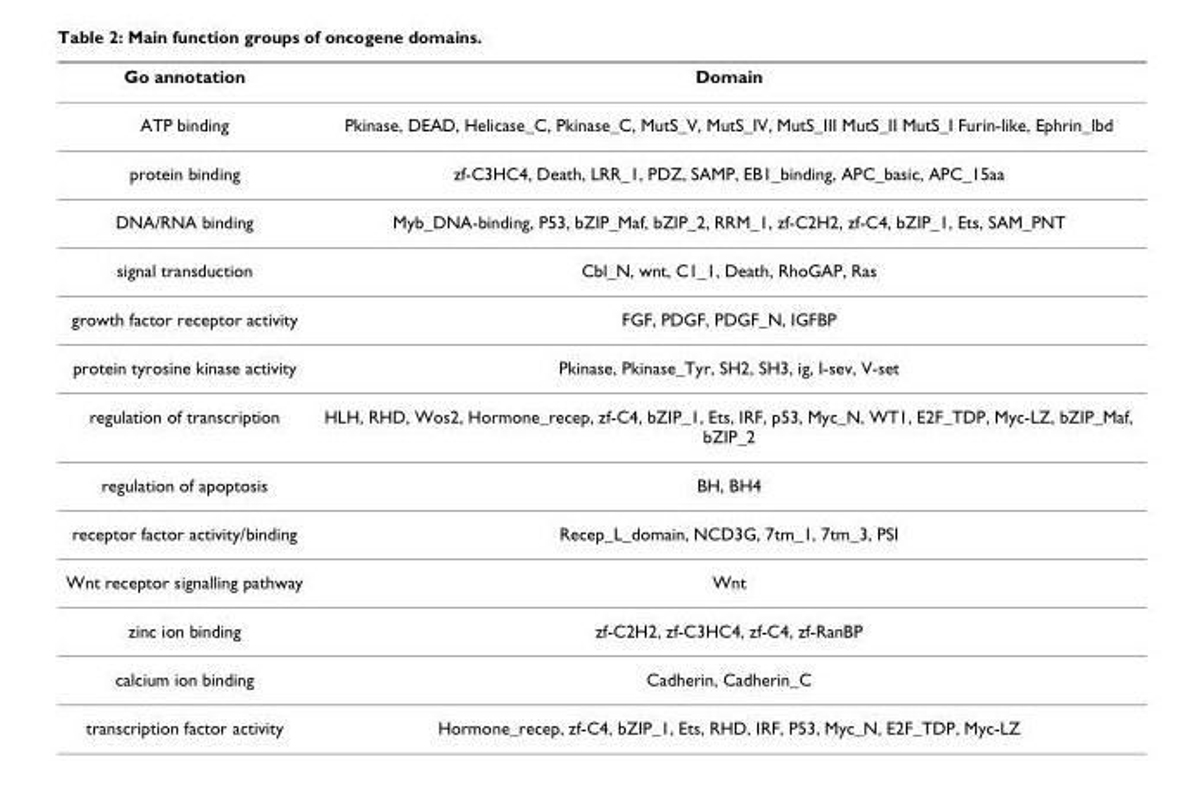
<table><thead><tr><td>Go annotation</td><td>Domain</td></tr></thead><tbody><tr><td>ATP binding</td><td>Pkinase, DEAD, Helicase_C, Pkinase_C, MutS_V, MutS_IV, MutS_III MutS_II MutS_I Furin-like, Ephrin_lbd</td></tr><tr><td>protein binding</td><td>zf-C3HC4, Death, LRR_1, PDZ, SAMP, EB1_binding, APC_basic, APC_15aa</td></tr><tr><td>DNA/RNA binding</td><td>Myb_DNA-binding, P53, bZIP_Maf, bZIP_2, RRM_1, zf-C2H2, zf-C4, bZIP_1, Ets, SAM_PNT</td></tr><tr><td>signal transduction</td><td>Cbl_N, wnt, C1_1, Death, RhoGAP, Ras</td></tr><tr><td>growth factor receptor activity</td><td>FGF, PDGF, PDGF_N, IGFBP</td></tr><tr><td>protein tyrosine kinase activity</td><td>Pkinase, Pkinase_Tyr, SH2, SH3, ig, I-sev, V-set</td></tr><tr><td>regulation of transcription</td><td>HLH, RHD, Wos2, Hormone_recep, zf-C4, bZIP_1, Ets, IRF, p53, Myc_N, WT1, E2F_TDP, Myc-LZ, bZIP_Maf, bZIP_2</td></tr><tr><td>regulation of apoptosis</td><td>BH, BH4</td></tr><tr><td>receptor factor activity/binding</td><td>Recep_L_domain, NCD3G, 7tm_1, 7tm_3, PSI</td></tr><tr><td>Wnt receptor signalling pathway</td><td>Wnt</td></tr><tr><td>zinc ion binding</td><td>zf-C2H2, zf-C3HC4, zf-C4, zf-RanBP</td></tr><tr><td>calcium ion binding</td><td>Cadherin, Cadherin_C</td></tr><tr><td>transcription factor activity</td><td>Hormone_recep, zf-C4, bZIP_1, Ets, RHD, IRF, P53, Myc_N, E2F_TDP, Myc-LZ</td></tr></tbody></table>